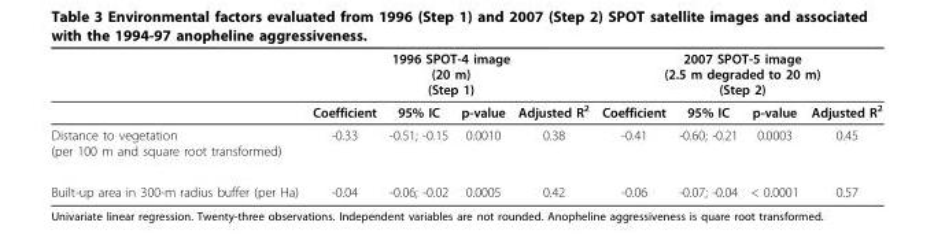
<table><thead><tr><td rowspan="2"></td><td colspan="4">1996 SPOT-4 image (20 m) (Step 1)</td><td colspan="4">2007 SPOT-5 image (2.5 m degraded to 20 m) (Step 2)</td></tr><tr><td>Coefficient</td><td>95% IC</td><td>p-value</td><td>Adjusted R2</td><td>Coefficient</td><td>95% IC</td><td>p-value</td><td>Adjusted R2</td></tr></thead><tbody><tr><td>Distance to vegetation (per 100 m and square root transformed)</td><td>-0.33</td><td>-0.51; -0.15</td><td>0.0010</td><td>0.38</td><td>-0.41</td><td>-0.60; -0.21</td><td>0.0003</td><td>0.45</td></tr><tr><td>Built-up area in 300-m radius buffer (per Ha)</td><td>-0.04</td><td>-0.06; -0.02</td><td>0.0005</td><td>0.42</td><td>-0.06</td><td>-0.07; -0.04</td><td>&lt; 0.0001</td><td>0.57</td></tr></tbody></table>